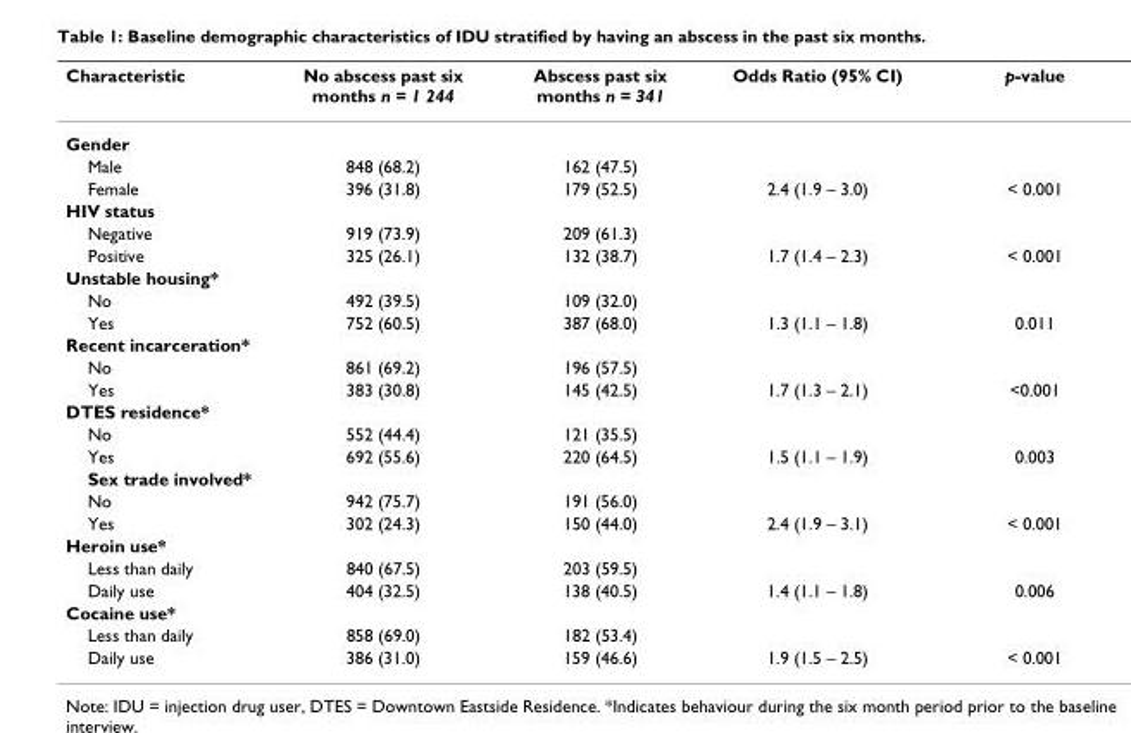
<table><thead><tr><td>Characteristic</td><td>No abscess past six months n = 1 244</td><td>Abscess past six months n = 341</td><td>Odds Ratio (95% CI)</td><td>p-value</td></tr></thead><tbody><tr><td colspan="5">Gender</td></tr><tr><td>Male</td><td>848 (68.2)</td><td>162 (47.5)</td><td></td><td></td></tr><tr><td>Female</td><td>396 (31.8)</td><td>179 (52.5)</td><td>2.4 (1.9 – 3.0)</td><td>&lt; 0.001</td></tr><tr><td colspan="5">HIV status</td></tr><tr><td>Negative</td><td>919 (73.9)</td><td>209 (61.3)</td><td></td><td></td></tr><tr><td>Positive</td><td>325 (26.1)</td><td>132 (38.7)</td><td>1.7 (1.4 – 2.3)</td><td>&lt; 0.001</td></tr><tr><td colspan="5">Unstable housing*</td></tr><tr><td>No</td><td>492 (39.5)</td><td>109 (32.0)</td><td></td><td></td></tr><tr><td>Yes</td><td>752 (60.5)</td><td>387 (68.0)</td><td>1.3 (1.1 – 1.8)</td><td>0.011</td></tr><tr><td colspan="5">Recent incarceration*</td></tr><tr><td>No</td><td>861 (69.2)</td><td>196 (57.5)</td><td></td><td></td></tr><tr><td>Yes</td><td>383 (30.8)</td><td>145 (42.5)</td><td>1.7 (1.3 – 2.1)</td><td>&lt;0.001</td></tr><tr><td colspan="5">DTES residence*</td></tr><tr><td>No</td><td>552 (44.4)</td><td>121 (35.5)</td><td></td><td></td></tr><tr><td>Yes</td><td>692 (55.6)</td><td>220 (64.5)</td><td>1.5 (1.1 – 1.9)</td><td>0.003</td></tr><tr><td colspan="5">Sex trade involved*</td></tr><tr><td>No</td><td>942 (75.7)</td><td>191 (56.0)</td><td></td><td></td></tr><tr><td>Yes</td><td>302 (24.3)</td><td>150 (44.0)</td><td>2.4 (1.9 – 3.1)</td><td>&lt; 0.001</td></tr><tr><td colspan="5">Heroin use*</td></tr><tr><td>Less than daily</td><td>840 (67.5)</td><td>203 (59.5)</td><td></td><td></td></tr><tr><td>Daily use</td><td>404 (32.5)</td><td>138 (40.5)</td><td>1.4 (1.1 – 1.8)</td><td>0.006</td></tr><tr><td colspan="5">Cocaine use*</td></tr><tr><td>Less than daily</td><td>858 (69.0)</td><td>182 (53.4)</td><td></td><td></td></tr><tr><td>Daily use</td><td>386 (31.0)</td><td>159 (46.6)</td><td>1.9 (1.5 – 2.5)</td><td>&lt; 0.001</td></tr></tbody></table>